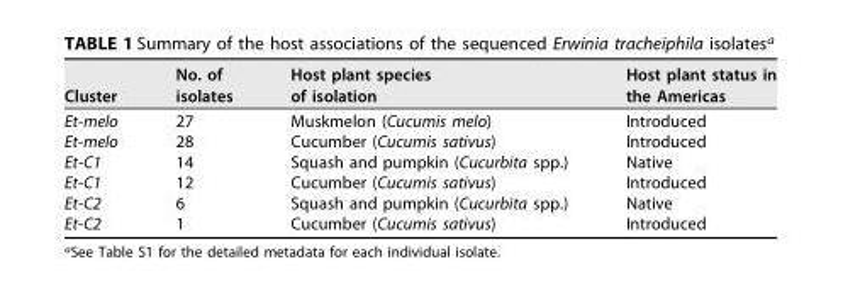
<table><thead><tr><td>Cluster</td><td>No. of isolates</td><td>Host plant species of isolation</td><td>Host plant status in the Americas</td></tr></thead><tbody><tr><td>Et-melo</td><td>27</td><td>Muskmelon (Cucumis melo)</td><td>Introduced</td></tr><tr><td>Et-melo</td><td>28</td><td>Cucumber (Cucumis sativus)</td><td>Introduced</td></tr><tr><td>Et-C1</td><td>14</td><td>Squash and pumpkin (Cucurbita spp.)</td><td>Native</td></tr><tr><td>Et-C1</td><td>12</td><td>Cucumber (Cucumis sativus)</td><td>Introduced</td></tr><tr><td>Et-C2</td><td>6</td><td>Squash and pumpkin (Cucurbita spp.)</td><td>Native</td></tr><tr><td>Et-C2</td><td>1</td><td>Cucumber (Cucumis sativus)</td><td>Introduced</td></tr></tbody></table>